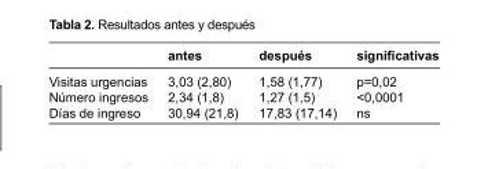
<table><thead><tr><td></td><td>antes</td><td>después</td><td>significativas</td></tr></thead><tbody><tr><td>Visitas urgencias</td><td>3,03 (2,80)</td><td>1,58 (1,77)</td><td>p=0,02</td></tr><tr><td>Número ingresos</td><td>2,34 (1,8)</td><td>1,27 (1,5)</td><td>&lt;0,0001</td></tr><tr><td>Días de ingreso</td><td>30,94 (21,8)</td><td>17,83 (17,14)</td><td>ns</td></tr></tbody></table>